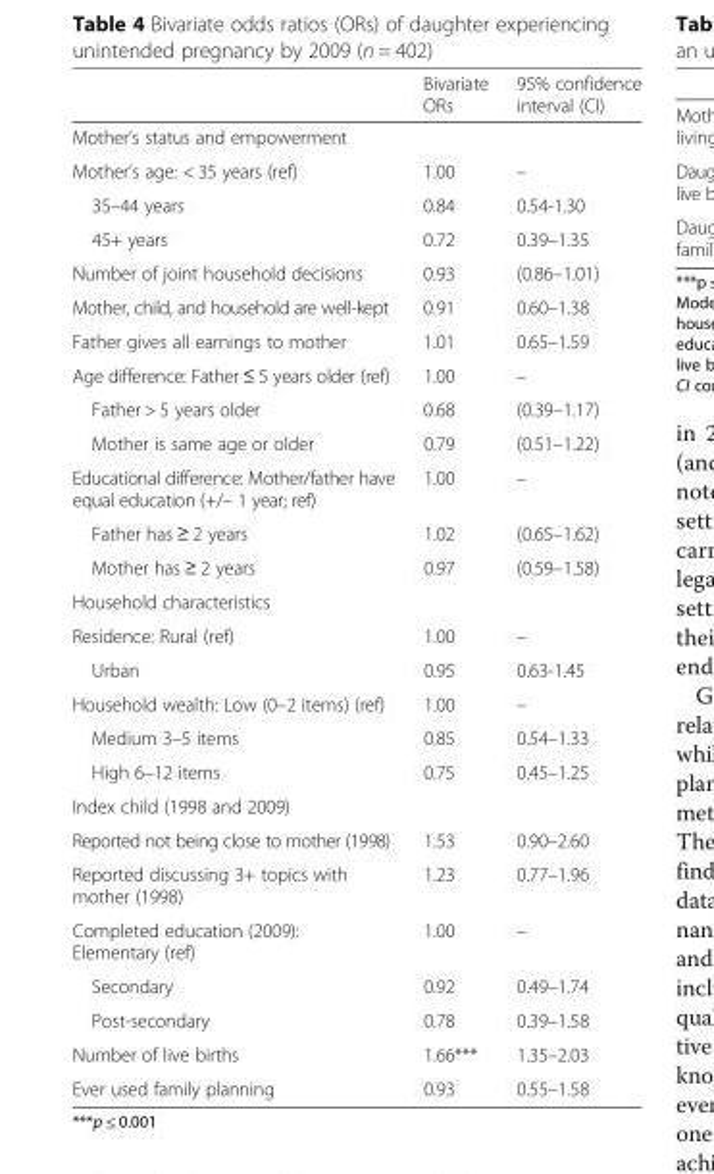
<table><thead><tr><td></td><td>Bivariate ORs</td><td>95% confidence interval (CI)</td></tr></thead><tbody><tr><td colspan="3">Mother’s status and empowerment</td></tr><tr><td>Mother’s age: &lt; 35 years (ref)</td><td>1.00</td><td>–</td></tr><tr><td>35–44 years</td><td>0.84</td><td>0.54-1.30</td></tr><tr><td>45+ years</td><td>0.72</td><td>0.39–1.35</td></tr><tr><td>Number of joint household decisions</td><td>0.93</td><td>(0.86–1.01)</td></tr><tr><td>Mother, child, and household are well-kept</td><td>0.91</td><td>0.60–1.38</td></tr><tr><td>Father gives all earnings to mother</td><td>1.01</td><td>0.65–1.59</td></tr><tr><td>Age difference: Father ≤ 5 years older (ref)</td><td>1.00</td><td>–</td></tr><tr><td>Father &gt; 5 years older</td><td>0.68</td><td>(0.39–1.17)</td></tr><tr><td>Mother is same age or older</td><td>0.79</td><td>(0.51–1.22)</td></tr><tr><td>Educational difference: Mother/father have equal education (+/– 1 year; ref)</td><td>1.00</td><td>–</td></tr><tr><td>Father has ≥ 2 years</td><td>1.02</td><td>(0.65–1.62)</td></tr><tr><td>Mother has ≥ 2 years</td><td>0.97</td><td>(0.59–1.58)</td></tr><tr><td colspan="3">Household characteristics</td></tr><tr><td>Residence: Rural (ref)</td><td>1.00</td><td>–</td></tr><tr><td>Urban</td><td>0.95</td><td>0.63-1.45</td></tr><tr><td>Household wealth: Low (0–2 items) (ref)</td><td>1.00</td><td>–</td></tr><tr><td>Medium 3–5 items</td><td>0.85</td><td>0.54–1.33</td></tr><tr><td>High 6–12 items</td><td>0.75</td><td>0.45–1.25</td></tr><tr><td colspan="3">Index child (1998 and 2009)</td></tr><tr><td>Reported not being close to mother (1998)</td><td>1.53</td><td>0.90–2.60</td></tr><tr><td>Reported discussing 3+ topics with mother (1998)</td><td>1.23</td><td>0.77–1.96</td></tr><tr><td>Completed education (2009): Elementary (ref)</td><td>1.00</td><td>–</td></tr><tr><td>Secondary</td><td>0.92</td><td>0.49–1.74</td></tr><tr><td>Post-secondary</td><td>0.78</td><td>0.39–1.58</td></tr><tr><td>Number of live births</td><td>1.66***</td><td>1.35–2.03</td></tr><tr><td>Ever used family planning</td><td>0.93</td><td>0.55–1.58</td></tr></tbody></table>